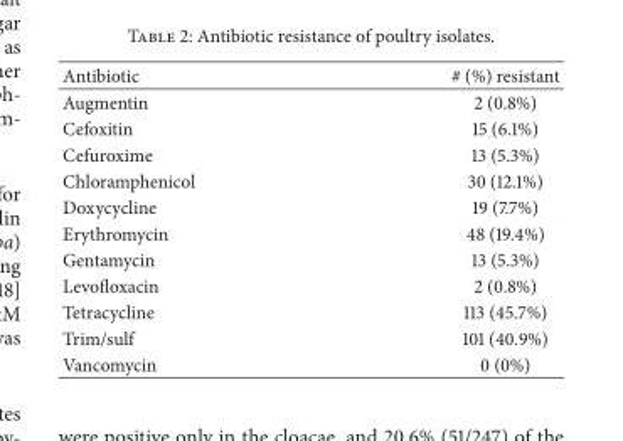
<table><thead><tr><td>Antibiotic</td><td># (%) resistant</td></tr></thead><tbody><tr><td>Augmentin</td><td>2 (0.8%)</td></tr><tr><td>Cefoxitin</td><td>15 (6.1%)</td></tr><tr><td>Cefuroxime</td><td>13 (5.3%)</td></tr><tr><td>Chloramphenicol</td><td>30 (12.1%)</td></tr><tr><td>Doxycycline</td><td>19 (7.7%)</td></tr><tr><td>Erythromycin</td><td>48 (19.4%)</td></tr><tr><td>Gentamycin</td><td>13 (5.3%)</td></tr><tr><td>Levofloxacin</td><td>2 (0.8%)</td></tr><tr><td>Tetracycline</td><td>113 (45.7%)</td></tr><tr><td>Trim/sulf</td><td>101 (40.9%)</td></tr><tr><td>Vancomycin</td><td>0 (0%)</td></tr></tbody></table>